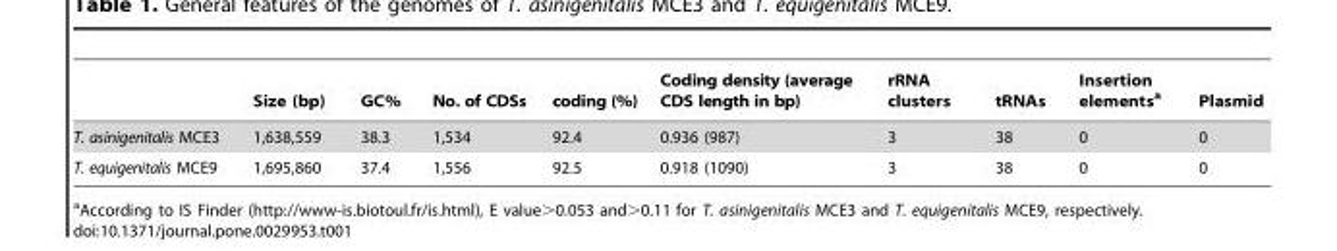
<table><thead><tr><td></td><td>Size (bp)</td><td>GC%</td><td>No. of CDSs</td><td>coding (%)</td><td>Coding density (average CDS length in bp)</td><td>rRNA clusters</td><td>tRNAs</td><td>Insertion elements<sup>a</sup></td><td>Plasmid</td></tr></thead><tbody><tr><td>T. asinigenitalis MCE3</td><td>1,638,559</td><td>38.3</td><td>1,534</td><td>92.4</td><td>0.936 (987)</td><td>3</td><td>38</td><td>0</td><td>0</td></tr><tr><td>T. equigenitalis MCE9</td><td>1,695,860</td><td>37.4</td><td>1,556</td><td>92.5</td><td>0.918 (1090)</td><td>3</td><td>38</td><td>0</td><td>0</td></tr></tbody></table>